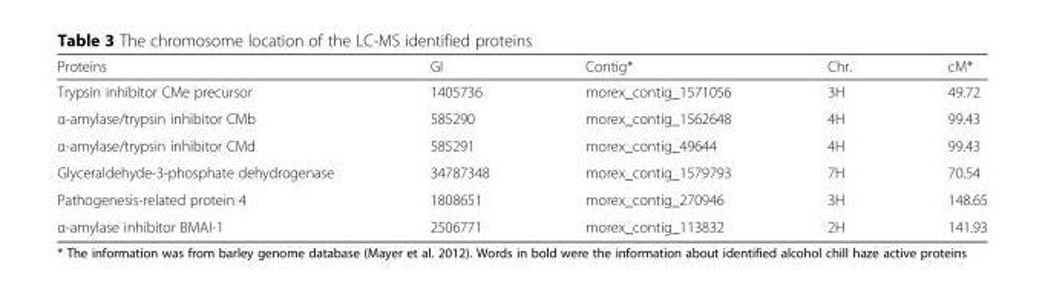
<table><thead><tr><td>Proteins</td><td>GI</td><td>Contig*</td><td>Chr.</td><td>cM*</td></tr></thead><tbody><tr><td>Trypsin inhibitor CMe precursor</td><td>1405736</td><td>morex_contig_1571056</td><td>3H</td><td>49.72</td></tr><tr><td>α-amylase/trypsin inhibitor CMb</td><td>585290</td><td>morex_contig_1562648</td><td>4H</td><td>99.43</td></tr><tr><td>α-amylase/trypsin inhibitor CMd</td><td>585291</td><td>morex_contig_49644</td><td>4H</td><td>99.43</td></tr><tr><td>Glyceraldehyde-3-phosphate dehydrogenase</td><td>34787348</td><td>morex_contig_1579793</td><td>7H</td><td>70.54</td></tr><tr><td>Pathogenesis-related protein 4</td><td>1808651</td><td>morex_contig_270946</td><td>3H</td><td>148.65</td></tr><tr><td>α-amylase inhibitor BMAI-1</td><td>2506771</td><td>morex_contig_113832</td><td>2H</td><td>141.93</td></tr></tbody></table>